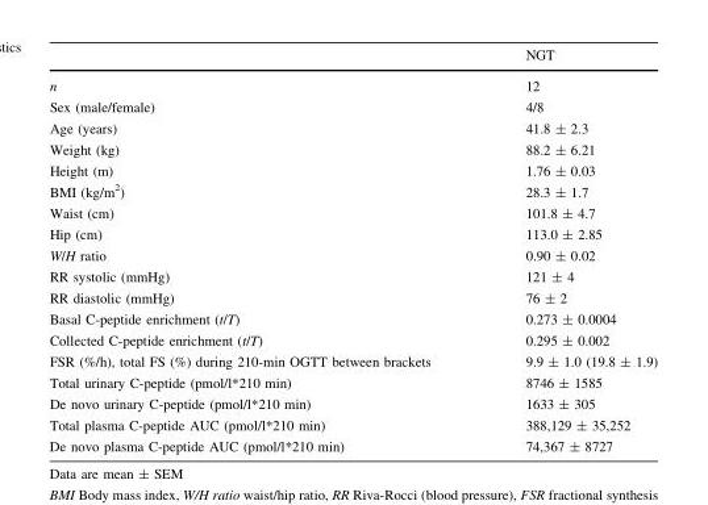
<table><thead><tr><td></td><td>NGT</td></tr></thead><tbody><tr><td>n</td><td>12</td></tr><tr><td>Sex (male/female)</td><td>4/8</td></tr><tr><td>Age (years)</td><td>41.8 ± 2.3</td></tr><tr><td>Weight (kg)</td><td>88.2 ± 6.21</td></tr><tr><td>Height (m)</td><td>1.76 ± 0.03</td></tr><tr><td>BMI (kg/m<sup>2</sup>)</td><td>28.3 ± 1.7</td></tr><tr><td>Waist (cm)</td><td>101.8 ± 4.7</td></tr><tr><td>Hip (cm)</td><td>113.0 ± 2.85</td></tr><tr><td>W/H ratio</td><td>0.90 ± 0.02</td></tr><tr><td>RR systolic (mmHg)</td><td>121 ± 4</td></tr><tr><td>RR diastolic (mmHg)</td><td>76 ± 2</td></tr><tr><td>Basal C-peptide enrichment (t/T)</td><td>0.273 ± 0.0004</td></tr><tr><td>Collected C-peptide enrichment (t/T)</td><td>0.295 ± 0.002</td></tr><tr><td>FSR (%/h), total FS (%) during 210-min OGTT between brackets</td><td>9.9 ± 1.0 (19.8 ± 1.9)</td></tr><tr><td>Total urinary C-peptide (pmol/l*210 min)</td><td>8746 ± 1585</td></tr><tr><td>De novo urinary C-peptide (pmol/l*210 min)</td><td>1633 ± 305</td></tr><tr><td>Total plasma C-peptide AUC (pmol/l*210 min)</td><td>388,129 ± 35,252</td></tr><tr><td>De novo plasma C-peptide AUC (pmol/l*210 min)</td><td>74,367 ± 8727</td></tr></tbody></table>